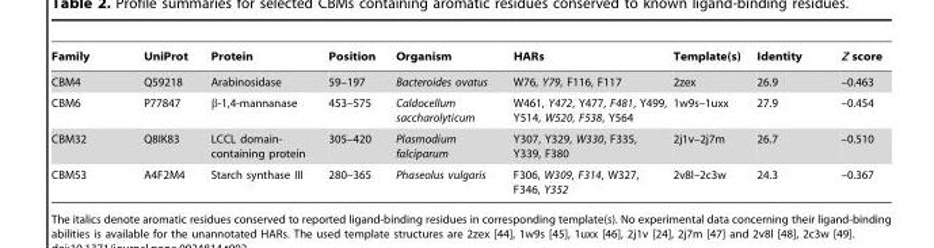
<table><thead><tr><td>Family</td><td>UniProt</td><td>Protein</td><td>Position</td><td>Organism</td><td>HARs</td><td>Template(s)</td><td>Identity</td><td>Z score</td></tr></thead><tbody><tr><td>CBM4</td><td>Q59218</td><td>Arabinosidase</td><td>59–197</td><td>Bacteroides ovatus</td><td>W76, Y79, F116, F117</td><td>2zex</td><td>26.9</td><td>–0.463</td></tr><tr><td>CBM6</td><td>P77847</td><td>β-1,4-mannanase</td><td>453–575</td><td>Caldocellum saccharolyticum</td><td>W461, Y472, Y477, F481, Y499, Y514, W520, F538, Y564</td><td>1w9s–1uxx</td><td>27.9</td><td>–0.454</td></tr><tr><td>CBM32</td><td>Q8IK83</td><td>LCCL domain- containing protein</td><td>305–420</td><td>Plasmodium falciparum</td><td>Y307, Y329, W330, F335, Y339, F380</td><td>2j1v–2j7m</td><td>26.7</td><td>–0.510</td></tr><tr><td>CBM53</td><td>A4F2M4</td><td>Starch synthase III</td><td>280–365</td><td>Phaseolus vulgaris</td><td>F306, W309, F314, W327, F346, Y352</td><td>2v8l–2c3w</td><td>24.3</td><td>–0.367</td></tr></tbody></table>